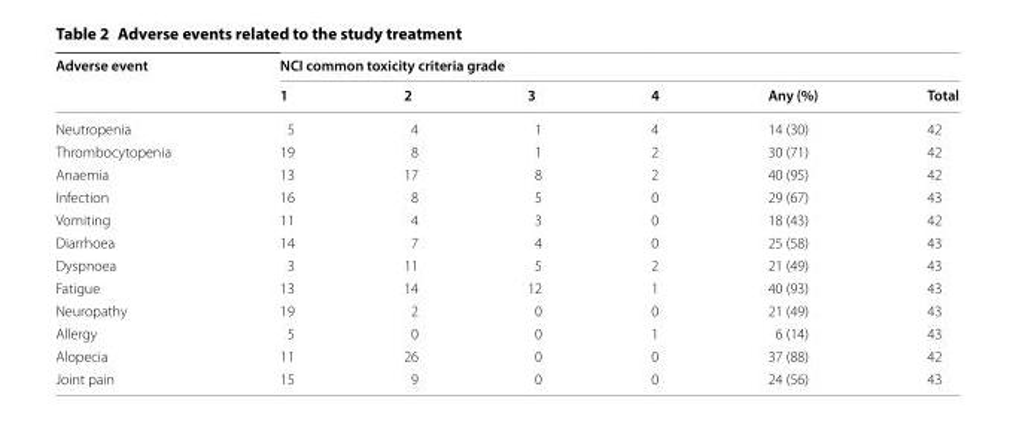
<table><thead><tr><td rowspan="2">Adverse event</td><td colspan="6">NCI common toxicity criteria grade</td></tr><tr><td>1</td><td>2</td><td>3</td><td>4</td><td>Any (%)</td><td>Total</td></tr></thead><tbody><tr><td>Neutropenia</td><td>5</td><td>4</td><td>1</td><td>4</td><td>14 (30)</td><td>42</td></tr><tr><td>Thrombocytopenia</td><td>19</td><td>8</td><td>1</td><td>2</td><td>30 (71)</td><td>42</td></tr><tr><td>Anaemia</td><td>13</td><td>17</td><td>8</td><td>2</td><td>40 (95)</td><td>42</td></tr><tr><td>Infection</td><td>16</td><td>8</td><td>5</td><td>0</td><td>29 (67)</td><td>43</td></tr><tr><td>Vomiting</td><td>11</td><td>4</td><td>3</td><td>0</td><td>18 (43)</td><td>42</td></tr><tr><td>Diarrhoea</td><td>14</td><td>7</td><td>4</td><td>0</td><td>25 (58)</td><td>43</td></tr><tr><td>Dyspnoea</td><td>3</td><td>11</td><td>5</td><td>2</td><td>21 (49)</td><td>43</td></tr><tr><td>Fatigue</td><td>13</td><td>14</td><td>12</td><td>1</td><td>40 (93)</td><td>43</td></tr><tr><td>Neuropathy</td><td>19</td><td>2</td><td>0</td><td>0</td><td>21 (49)</td><td>43</td></tr><tr><td>Allergy</td><td>5</td><td>0</td><td>0</td><td>1</td><td>6 (14)</td><td>43</td></tr><tr><td>Alopecia</td><td>11</td><td>26</td><td>0</td><td>0</td><td>37 (88)</td><td>42</td></tr><tr><td>Joint pain</td><td>15</td><td>9</td><td>0</td><td>0</td><td>24 (56)</td><td>43</td></tr></tbody></table>